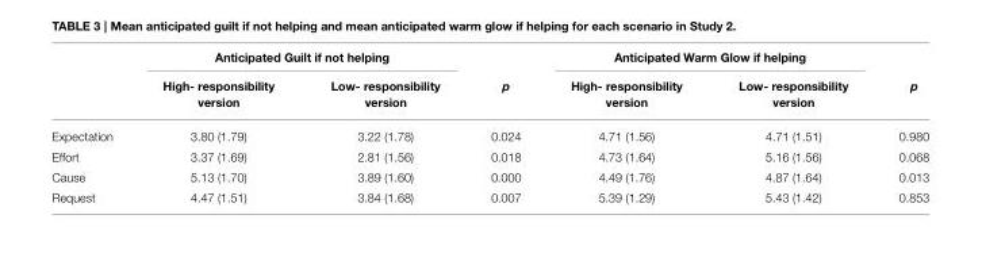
<table><thead><tr><td rowspan="2"></td><td colspan="2">Anticipated Guilt if not helping</td><td rowspan="2">p</td><td colspan="2">Anticipated Warm Glow if helping</td><td rowspan="2">p</td></tr><tr><td>High- responsibility version</td><td>Low- responsibility version</td><td>High- responsibility version</td><td>Low- responsibility version</td></tr></thead><tbody><tr><td>Expectation</td><td>3.80 (1.79)</td><td>3.22 (1.78)</td><td>0.024</td><td>4.71 (1.56)</td><td>4.71 (1.51)</td><td>0.980</td></tr><tr><td>Effort</td><td>3.37 (1.69)</td><td>2.81 (1.56)</td><td>0.018</td><td>4.73 (1.64)</td><td>5.16 (1.56)</td><td>0.068</td></tr><tr><td>Cause</td><td>5.13 (1.70)</td><td>3.89 (1.60)</td><td>0.000</td><td>4.49 (1.76)</td><td>4.87 (1.64)</td><td>0.013</td></tr><tr><td>Request</td><td>4.47 (1.51)</td><td>3.84 (1.68)</td><td>0.007</td><td>5.39 (1.29)</td><td>5.43 (1.42)</td><td>0.853</td></tr></tbody></table>